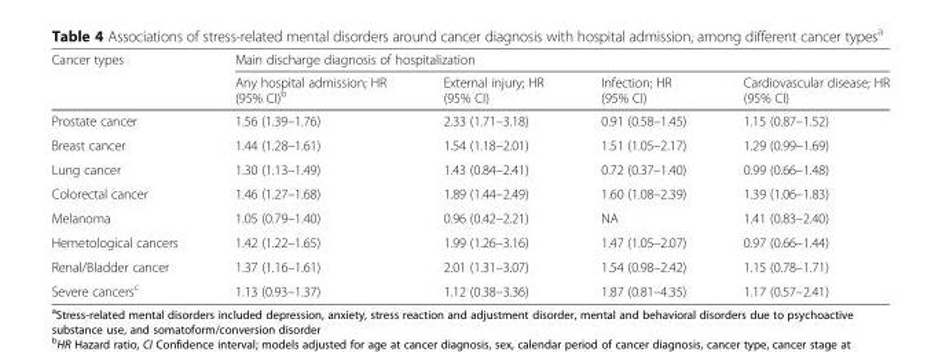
<table><thead><tr><td rowspan="2">Cancer types</td><td colspan="4">Main discharge diagnosis of hospitalization</td></tr><tr><td>Any hospital admission; HR (95% CI)<sup>b</sup></td><td>External injury; HR (95% CI)</td><td>Infection; HR (95% CI)</td><td>Cardiovascular disease; HR (95% CI)</td></tr></thead><tbody><tr><td>Prostate cancer</td><td>1.56 (1.39–1.76)</td><td>2.33 (1.71–3.18)</td><td>0.91 (0.58–1.45)</td><td>1.15 (0.87–1.52)</td></tr><tr><td>Breast cancer</td><td>1.44 (1.28–1.61)</td><td>1.54 (1.18–2.01)</td><td>1.51 (1.05–2.17)</td><td>1.29 (0.99–1.69)</td></tr><tr><td>Lung cancer</td><td>1.30 (1.13–1.49)</td><td>1.43 (0.84–2.41)</td><td>0.72 (0.37–1.40)</td><td>0.99 (0.66–1.48)</td></tr><tr><td>Colorectal cancer</td><td>1.46 (1.27–1.68)</td><td>1.89 (1.44–2.49)</td><td>1.60 (1.08–2.39)</td><td>1.39 (1.06–1.83)</td></tr><tr><td>Melanoma</td><td>1.05 (0.79–1.40)</td><td>0.96 (0.42–2.21)</td><td>NA</td><td>1.41 (0.83–2.40)</td></tr><tr><td>Hemetological cancers</td><td>1.42 (1.22–1.65)</td><td>1.99 (1.26–3.16)</td><td>1.47 (1.05–2.07)</td><td>0.97 (0.66–1.44)</td></tr><tr><td>Renal/Bladder cancer</td><td>1.37 (1.16–1.61)</td><td>2.01 (1.31–3.07)</td><td>1.54 (0.98–2.42)</td><td>1.15 (0.78–1.71)</td></tr><tr><td>Severe cancers<sup>c</sup></td><td>1.13 (0.93–1.37)</td><td>1.12 (0.38–3.36)</td><td>1.87 (0.81–4.35)</td><td>1.17 (0.57–2.41)</td></tr></tbody></table>